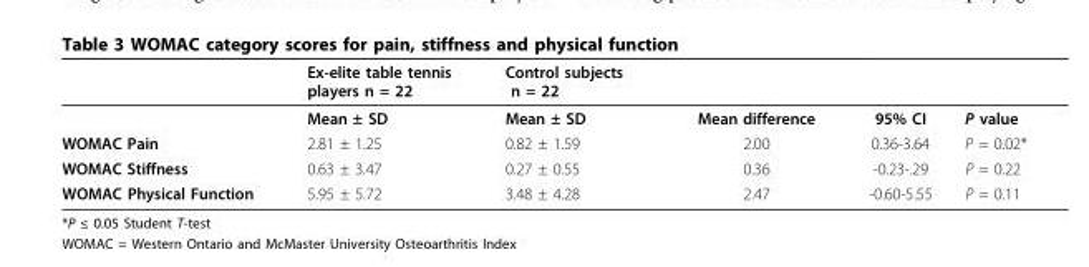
<table><thead><tr><td></td><td>Ex-elite table tennis players n = 22</td><td>Control subjects n = 22</td><td></td><td></td><td></td></tr></thead><tbody><tr><td></td><td>Mean ± SD</td><td>Mean ± SD</td><td>Mean difference</td><td>95% CI</td><td>P value</td></tr><tr><td>WOMAC Pain</td><td>2.81 ± 1.25</td><td>0.82 ± 1.59</td><td>2.00</td><td>0.36-3.64</td><td>P = 0.02*</td></tr><tr><td>WOMAC Stiffness</td><td>0.63 ± 3.47</td><td>0.27 ± 0.55</td><td>0.36</td><td>-0.23-.29</td><td>P = 0.22</td></tr><tr><td>WOMAC Physical Function</td><td>5.95 ± 5.72</td><td>3.48 ± 4.28</td><td>2.47</td><td>-0.60-5.55</td><td>P = 0.11</td></tr></tbody></table>